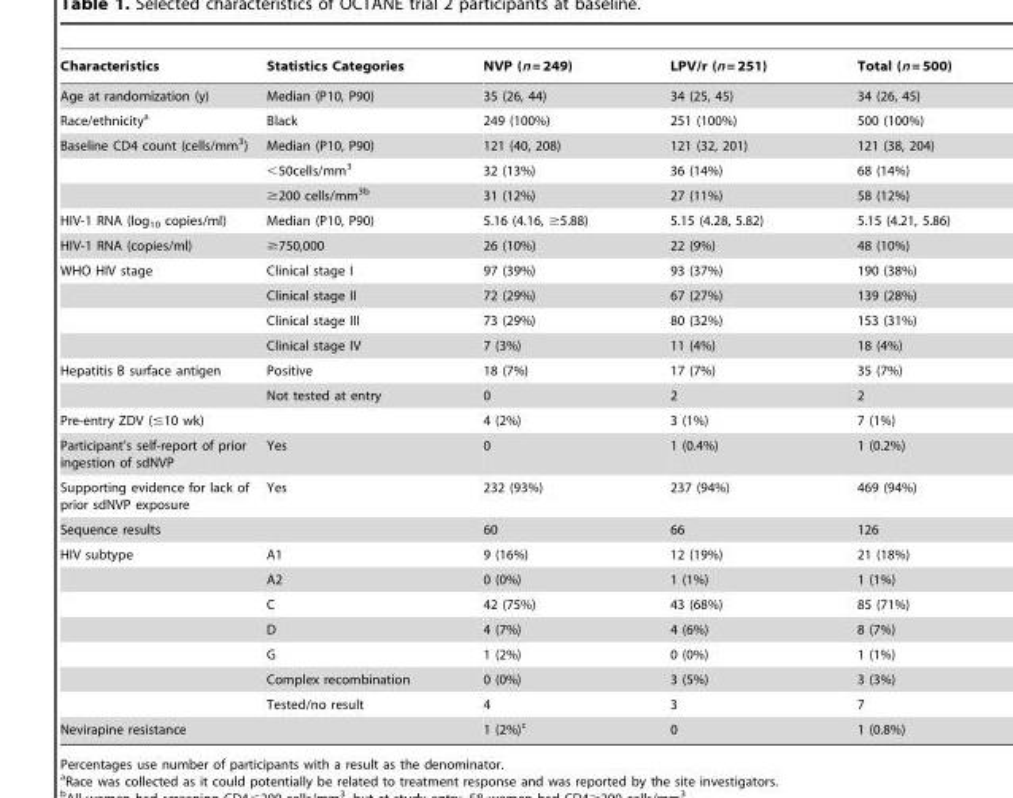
<table><thead><tr><td>Characteristics</td><td>Statistics Categories</td><td>NVP (n = 249)</td><td>LPV/r (n = 251)</td><td>Total (n = 500)</td></tr></thead><tbody><tr><td>Age at randomization (y)</td><td>Median (P10, P90)</td><td>35 (26, 44)</td><td>34 (25, 45)</td><td>34 (26, 45)</td></tr><tr><td>Race/ethnicity<sup>a</sup></td><td>Black</td><td>249 (100%)</td><td>251 (100%)</td><td>500 (100%)</td></tr><tr><td rowspan="3">Baseline CD4 count (cells/mm<sup>3</sup>)</td><td>Median (P10, P90)</td><td>121 (40, 208)</td><td>121 (32, 201)</td><td>121 (38, 204)</td></tr><tr><td>&lt;50cells/mm<sup>3</sup></td><td>32 (13%)</td><td>36 (14%)</td><td>68 (14%)</td></tr><tr><td>≥200 cells/mm<sup>3</sup>b</td><td>31 (12%)</td><td>27 (11%)</td><td>58 (12%)</td></tr><tr><td>HIV-1 RNA (log<sub>10</sub> copies/ml)</td><td>Median (P10, P90)</td><td>5.16 (4.16, ≥5.88)</td><td>5.15 (4.28, 5.82)</td><td>5.15 (4.21, 5.86)</td></tr><tr><td>HIV-1 RNA (copies/ml)</td><td>≥750,000</td><td>26 (10%)</td><td>22 (9%)</td><td>48 (10%)</td></tr><tr><td rowspan="4">WHO HIV stage</td><td>Clinical stage I</td><td>97 (39%)</td><td>93 (37%)</td><td>190 (38%)</td></tr><tr><td>Clinical stage II</td><td>72 (29%)</td><td>67 (27%)</td><td>139 (28%)</td></tr><tr><td>Clinical stage III</td><td>73 (29%)</td><td>80 (32%)</td><td>153 (31%)</td></tr><tr><td>Clinical stage IV</td><td>7 (3%)</td><td>11 (4%)</td><td>18 (4%)</td></tr><tr><td rowspan="2">Hepatitis B surface antigen</td><td>Positive</td><td>18 (7%)</td><td>17 (7%)</td><td>35 (7%)</td></tr><tr><td>Not tested at entry</td><td>0</td><td>2</td><td>2</td></tr><tr><td>Pre-entry ZDV (≤10 wk)</td><td></td><td>4 (2%)</td><td>3 (1%)</td><td>7 (1%)</td></tr><tr><td>Participant’s self-report of prior ingestion of sdNVP</td><td>Yes</td><td>0</td><td>1 (0.4%)</td><td>1 (0.2%)</td></tr><tr><td>Supporting evidence for lack of prior sdNVP exposure</td><td>Yes</td><td>232 (93%)</td><td>237 (94%)</td><td>469 (94%)</td></tr><tr><td>Sequence results</td><td></td><td>60</td><td>66</td><td>126</td></tr><tr><td rowspan="7">HIV subtype</td><td>A1</td><td>9 (16%)</td><td>12 (19%)</td><td>21 (18%)</td></tr><tr><td>A2</td><td>0 (0%)</td><td>1 (1%)</td><td>1 (1%)</td></tr><tr><td>C</td><td>42 (75%)</td><td>43 (68%)</td><td>85 (71%)</td></tr><tr><td>D</td><td>4 (7%)</td><td>4 (6%)</td><td>8 (7%)</td></tr><tr><td>G</td><td>1 (2%)</td><td>0 (0%)</td><td>1 (1%)</td></tr><tr><td>Complex recombination</td><td>0 (0%)</td><td>3 (5%)</td><td>3 (3%)</td></tr><tr><td>Tested/no result</td><td>4</td><td>3</td><td>7</td></tr><tr><td>Nevirapine resistance</td><td></td><td>1 (2%)<sup>c</sup></td><td>0</td><td>1 (0.8%)</td></tr></tbody></table>